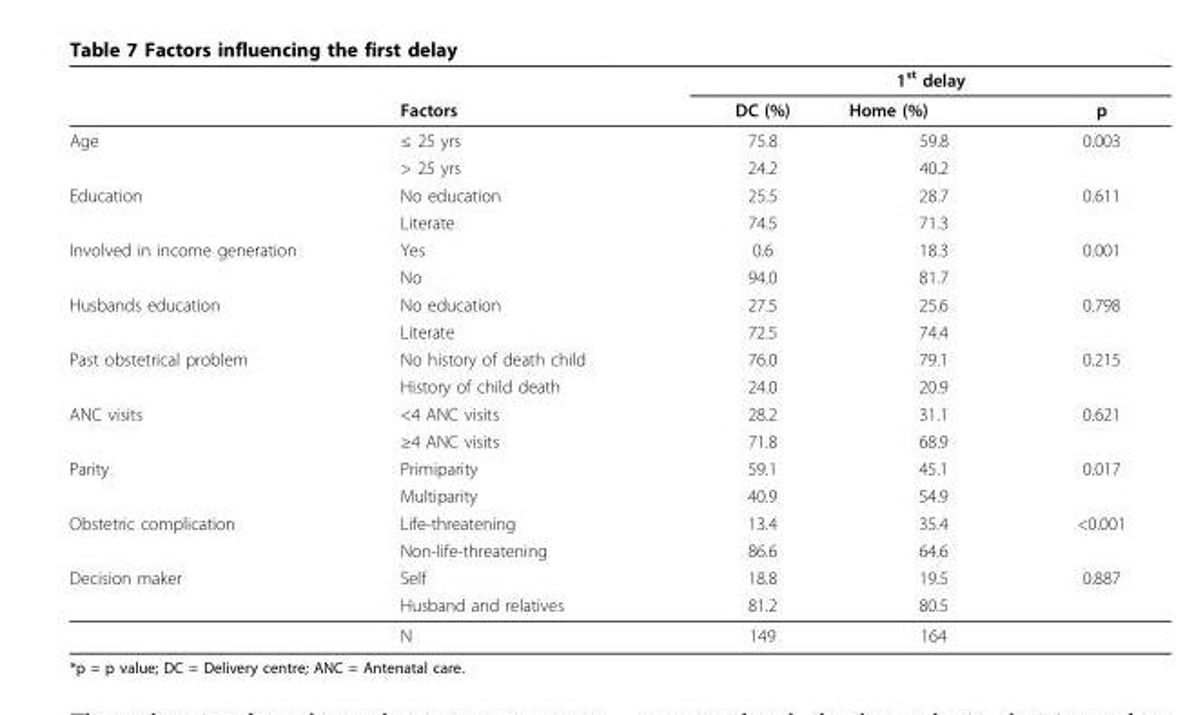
<table><thead><tr><td rowspan="2"></td><td rowspan="2">Factors</td><td colspan="3">1<sup>st</sup> delay</td></tr><tr><td>DC (%)</td><td>Home (%)</td><td>p</td></tr></thead><tbody><tr><td rowspan="2">Age</td><td>≤ 25 yrs</td><td>75.8</td><td>59.8</td><td>0.003</td></tr><tr><td>&gt; 25 yrs</td><td>24.2</td><td>40.2</td><td></td></tr><tr><td rowspan="2">Education</td><td>No education</td><td>25.5</td><td>28.7</td><td>0.611</td></tr><tr><td>Literate</td><td>74.5</td><td>71.3</td><td></td></tr><tr><td rowspan="2">Involved in income generation</td><td>Yes</td><td>0.6</td><td>18.3</td><td>0.001</td></tr><tr><td>No</td><td>94.0</td><td>81.7</td><td></td></tr><tr><td rowspan="2">Husbands education</td><td>No education</td><td>27.5</td><td>25.6</td><td>0.798</td></tr><tr><td>Literate</td><td>72.5</td><td>74.4</td><td></td></tr><tr><td rowspan="2">Past obstetrical problem</td><td>No history of death child</td><td>76.0</td><td>79.1</td><td>0.215</td></tr><tr><td>History of child death</td><td>24.0</td><td>20.9</td><td></td></tr><tr><td rowspan="2">ANC visits</td><td>&lt;4 ANC visits</td><td>28.2</td><td>31.1</td><td>0.621</td></tr><tr><td>≥4 ANC visits</td><td>71.8</td><td>68.9</td><td></td></tr><tr><td rowspan="2">Parity</td><td>Primiparity</td><td>59.1</td><td>45.1</td><td>0.017</td></tr><tr><td>Multiparity</td><td>40.9</td><td>54.9</td><td></td></tr><tr><td rowspan="2">Obstetric complication</td><td>Life-threatening</td><td>13.4</td><td>35.4</td><td>&lt;0.001</td></tr><tr><td>Non-life-threatening</td><td>86.6</td><td>64.6</td><td></td></tr><tr><td rowspan="3">Decision maker</td><td>Self</td><td>18.8</td><td>19.5</td><td>0.887</td></tr><tr><td>Husband and relatives</td><td>81.2</td><td>80.5</td><td></td></tr><tr><td>N</td><td>149</td><td>164</td><td></td></tr></tbody></table>